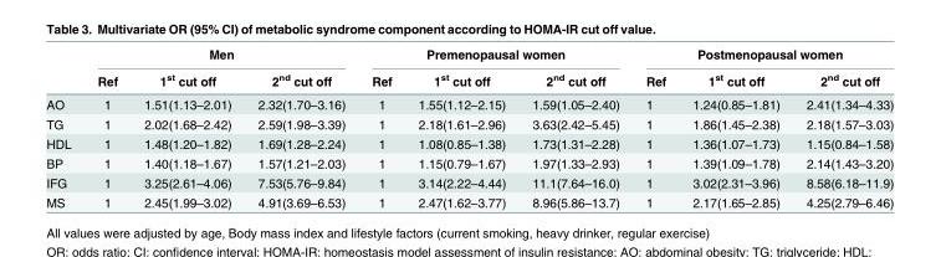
<table><thead><tr><td rowspan="2"></td><td colspan="3">Men</td><td colspan="3">Premenopausal women</td><td colspan="3">Postmenopausal women</td></tr><tr><td>Ref</td><td>1<sup>st</sup> cut off</td><td>2<sup>nd</sup> cut off</td><td>Ref</td><td>1<sup>st</sup> cut off</td><td>2<sup>nd</sup> cut off</td><td>Ref</td><td>1<sup>st</sup> cut off</td><td>2<sup>nd</sup> cut off</td></tr></thead><tbody><tr><td>AO</td><td>1</td><td>1.51(1.13–2.01)</td><td>2.32(1.70–3.16)</td><td>1</td><td>1.55(1.12–2.15)</td><td>1.59(1.05–2.40)</td><td>1</td><td>1.24(0.85–1.81)</td><td>2.41(1.34–4.33)</td></tr><tr><td>TG</td><td>1</td><td>2.02(1.68–2.42)</td><td>2.59(1.98–3.39)</td><td>1</td><td>2.18(1.61–2.96)</td><td>3.63(2.42–5.45)</td><td>1</td><td>1.86(1.45–2.38)</td><td>2.18(1.57–3.03)</td></tr><tr><td>HDL</td><td>1</td><td>1.48(1.20–1.82)</td><td>1.69(1.28–2.24)</td><td>1</td><td>1.08(0.85–1.38)</td><td>1.73(1.31–2.28)</td><td>1</td><td>1.36(1.07–1.73)</td><td>1.15(0.84–1.58)</td></tr><tr><td>BP</td><td>1</td><td>1.40(1.18–1.67)</td><td>1.57(1.21–2.03)</td><td>1</td><td>1.15(0.79–1.67)</td><td>1.97(1.33–2.93)</td><td>1</td><td>1.39(1.09–1.78)</td><td>2.14(1.43–3.20)</td></tr><tr><td>IFG</td><td>1</td><td>3.25(2.61–4.06)</td><td>7.53(5.76–9.84)</td><td>1</td><td>3.14(2.22–4.44)</td><td>11.1(7.64–16.0)</td><td>1</td><td>3.02(2.31–3.96)</td><td>8.58(6.18–11.9)</td></tr><tr><td>MS</td><td>1</td><td>2.45(1.99–3.02)</td><td>4.91(3.69–6.53)</td><td>1</td><td>2.47(1.62–3.77)</td><td>8.96(5.86–13.7)</td><td>1</td><td>2.17(1.65–2.85)</td><td>4.25(2.79–6.46)</td></tr></tbody></table>